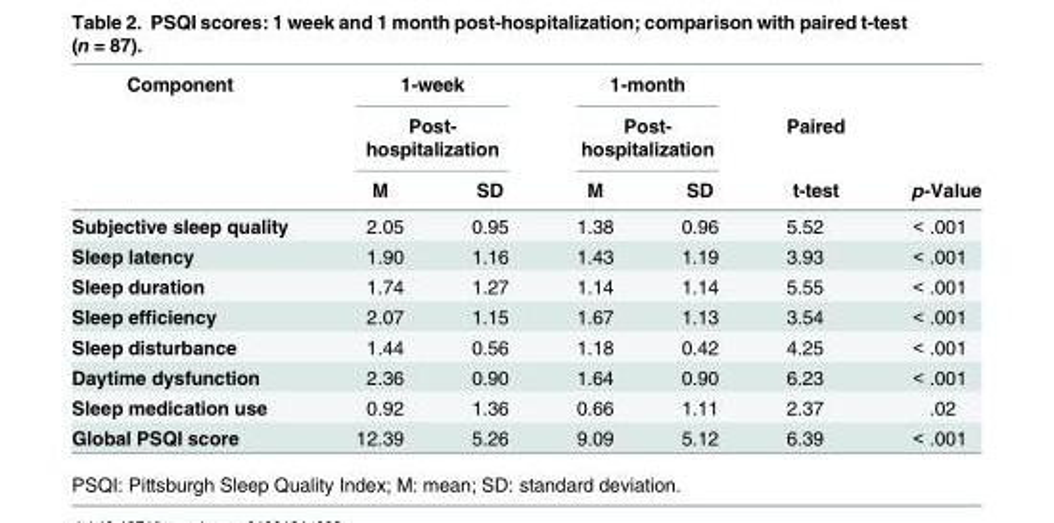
<table><thead><tr><td rowspan="3">Component</td><td rowspan="2" colspan="2">1-week Post- hospitalization</td><td rowspan="2" colspan="2">1-month Post- hospitalization</td><td rowspan="3">Paired t-test</td><td rowspan="3">p-Value</td></tr><tr></tr><tr><td>M</td><td>SD</td><td>M</td><td>SD</td></tr></thead><tbody><tr><td>Subjective sleep quality</td><td>2.05</td><td>0.95</td><td>1.38</td><td>0.96</td><td>5.52</td><td>&lt; .001</td></tr><tr><td>Sleep latency</td><td>1.90</td><td>1.16</td><td>1.43</td><td>1.19</td><td>3.93</td><td>&lt; .001</td></tr><tr><td>Sleep duration</td><td>1.74</td><td>1.27</td><td>1.14</td><td>1.14</td><td>5.55</td><td>&lt; .001</td></tr><tr><td>Sleep efficiency</td><td>2.07</td><td>1.15</td><td>1.67</td><td>1.13</td><td>3.54</td><td>&lt; .001</td></tr><tr><td>Sleep disturbance</td><td>1.44</td><td>0.56</td><td>1.18</td><td>0.42</td><td>4.25</td><td>&lt; .001</td></tr><tr><td>Daytime dysfunction</td><td>2.36</td><td>0.90</td><td>1.64</td><td>0.90</td><td>6.23</td><td>&lt; .001</td></tr><tr><td>Sleep medication use</td><td>0.92</td><td>1.36</td><td>0.66</td><td>1.11</td><td>2.37</td><td>.02</td></tr><tr><td>Global PSQI score</td><td>12.39</td><td>5.26</td><td>9.09</td><td>5.12</td><td>6.39</td><td>&lt; .001</td></tr></tbody></table>